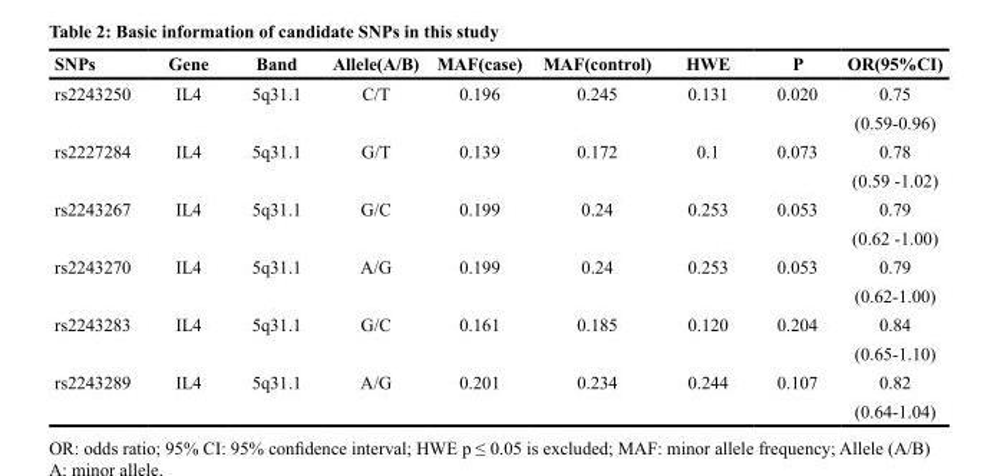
<table><thead><tr><td>SNPs</td><td>Gene</td><td>Band</td><td>Allele(A/B)</td><td>MAF(case)</td><td>MAF(control)</td><td>HWE</td><td>P</td><td>OR(95%CI)</td></tr></thead><tbody><tr><td rowspan="2">rs2243250</td><td>IL4</td><td>5q31.1</td><td>C/T</td><td>0.196</td><td>0.245</td><td>0.131</td><td>0.020</td><td>0.75</td></tr><tr><td></td><td></td><td></td><td></td><td></td><td></td><td></td><td>(0.59-0.96)</td></tr><tr><td rowspan="2">rs2227284</td><td>IL4</td><td>5q31.1</td><td>G/T</td><td>0.139</td><td>0.172</td><td>0.1</td><td>0.073</td><td>0.78</td></tr><tr><td></td><td></td><td></td><td></td><td></td><td></td><td></td><td>(0.59 -1.02)</td></tr><tr><td rowspan="2">rs2243267</td><td>IL4</td><td>5q31.1</td><td>G/C</td><td>0.199</td><td>0.24</td><td>0.253</td><td>0.053</td><td>0.79</td></tr><tr><td></td><td></td><td></td><td></td><td></td><td></td><td></td><td>(0.62 -1.00)</td></tr><tr><td rowspan="2">rs2243270</td><td>IL4</td><td>5q31.1</td><td>A/G</td><td>0.199</td><td>0.24</td><td>0.253</td><td>0.053</td><td>0.79</td></tr><tr><td></td><td></td><td></td><td></td><td></td><td></td><td></td><td>(0.62-1.00)</td></tr><tr><td rowspan="2">rs2243283</td><td>IL4</td><td>5q31.1</td><td>G/C</td><td>0.161</td><td>0.185</td><td>0.120</td><td>0.204</td><td>0.84</td></tr><tr><td></td><td></td><td></td><td></td><td></td><td></td><td></td><td>(0.65-1.10)</td></tr><tr><td rowspan="2">rs2243289</td><td>IL4</td><td>5q31.1</td><td>A/G</td><td>0.201</td><td>0.234</td><td>0.244</td><td>0.107</td><td>0.82</td></tr><tr><td></td><td></td><td></td><td></td><td></td><td></td><td></td><td>(0.64-1.04)</td></tr></tbody></table>